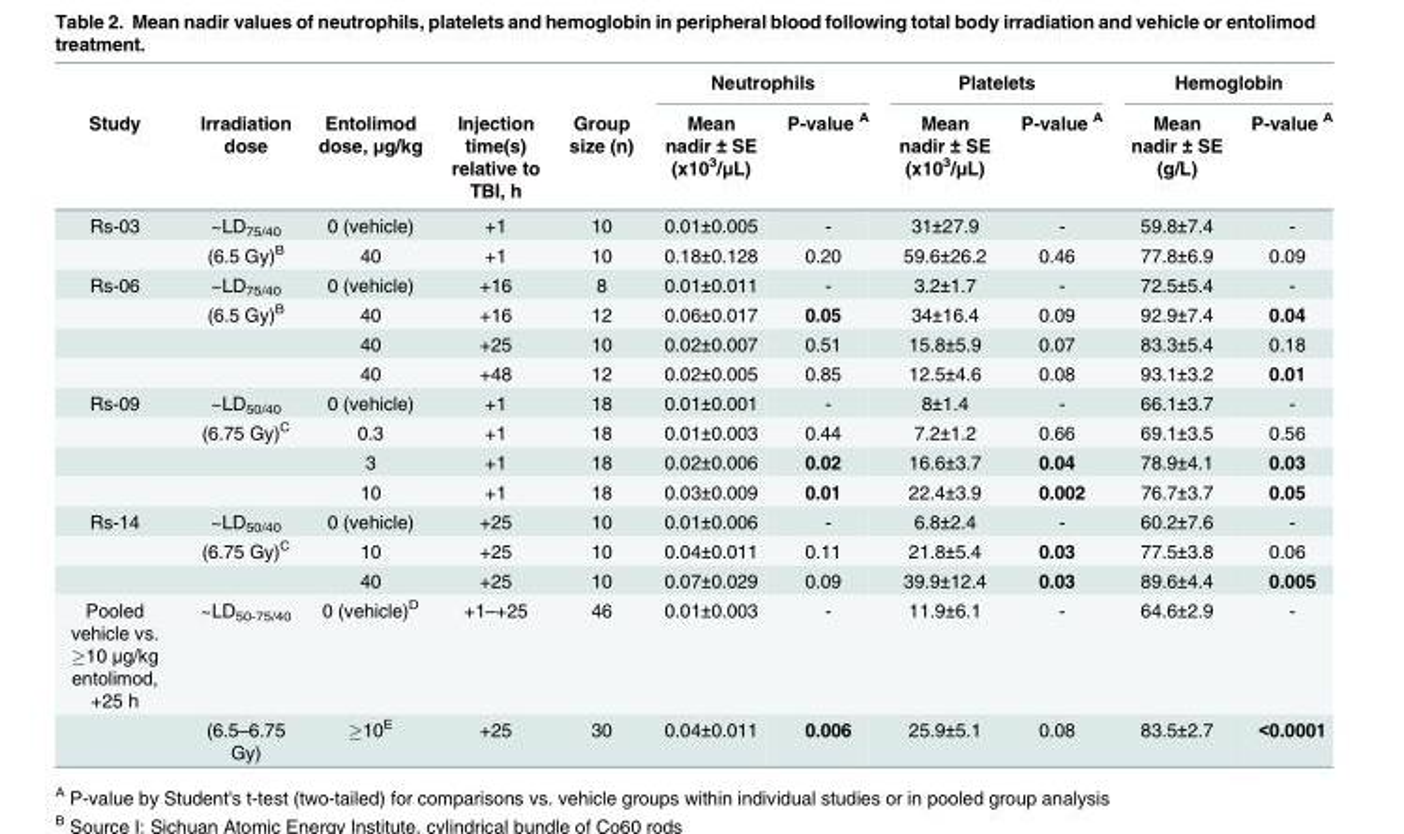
<table><thead><tr><td rowspan="2">Study</td><td rowspan="2">Irradiation dose</td><td rowspan="2">Entolimod dose, μg/kg</td><td rowspan="2">Injection time(s) relative to TBI, h</td><td rowspan="2">Group size (n)</td><td colspan="2">Neutrophils</td><td colspan="2">Platelets</td><td colspan="2">Hemoglobin</td></tr><tr><td>Mean nadir ± SE (x10<sup>3</sup>/μL)</td><td>P-value <sup>A</sup></td><td>Mean nadir ± SE (x10<sup>3</sup>/μL)</td><td>P-value <sup>A</sup></td><td>Mean nadir ± SE (g/L)</td><td>P-value <sup>A</sup></td></tr></thead><tbody><tr><td rowspan="2">Rs-03</td><td>~LD<sub>75/40</sub></td><td>0 (vehicle)</td><td>+1</td><td>10</td><td>0.01±0.005</td><td>-</td><td>31±27.9</td><td>-</td><td>59.8±7.4</td><td>-</td></tr><tr><td>(6.5 Gy)<sup>B</sup></td><td>40</td><td>+1</td><td>10</td><td>0.18±0.128</td><td>0.20</td><td>59.6±26.2</td><td>0.46</td><td>77.8±6.9</td><td>0.09</td></tr><tr><td rowspan="4">Rs-06</td><td>~LD<sub>75/40</sub></td><td>0 (vehicle)</td><td>+16</td><td>8</td><td>0.01±0.011</td><td>-</td><td>3.2±1.7</td><td>-</td><td>72.5±5.4</td><td>-</td></tr><tr><td>(6.5 Gy)<sup>B</sup></td><td>40</td><td>+16</td><td>12</td><td>0.06±0.017</td><td>0.05</td><td>34±16.4</td><td>0.09</td><td>92.9±7.4</td><td>0.04</td></tr><tr><td></td><td>40</td><td>+25</td><td>10</td><td>0.02±0.007</td><td>0.51</td><td>15.8±5.9</td><td>0.07</td><td>83.3±5.4</td><td>0.18</td></tr><tr><td></td><td>40</td><td>+48</td><td>12</td><td>0.02±0.005</td><td>0.85</td><td>12.5±4.6</td><td>0.08</td><td>93.1±3.2</td><td>0.01</td></tr><tr><td rowspan="4">Rs-09</td><td>~LD<sub>50/40</sub></td><td>0 (vehicle)</td><td>+1</td><td>18</td><td>0.01±0.001</td><td>-</td><td>8±1.4</td><td>-</td><td>66.1±3.7</td><td>-</td></tr><tr><td>(6.75 Gy)<sup>C</sup></td><td>0.3</td><td>+1</td><td>18</td><td>0.01±0.003</td><td>0.44</td><td>7.2±1.2</td><td>0.66</td><td>69.1±3.5</td><td>0.56</td></tr><tr><td></td><td>3</td><td>+1</td><td>18</td><td>0.02±0.006</td><td>0.02</td><td>16.6±3.7</td><td>0.04</td><td>78.9±4.1</td><td>0.03</td></tr><tr><td></td><td>10</td><td>+1</td><td>18</td><td>0.03±0.009</td><td>0.01</td><td>22.4±3.9</td><td>0.002</td><td>76.7±3.7</td><td>0.05</td></tr><tr><td rowspan="3">Rs-14</td><td>~LD<sub>50/40</sub></td><td>0 (vehicle)</td><td>+25</td><td>10</td><td>0.01±0.006</td><td>-</td><td>6.8±2.4</td><td>-</td><td>60.2±7.6</td><td>-</td></tr><tr><td>(6.75 Gy)<sup>C</sup></td><td>10</td><td>+25</td><td>10</td><td>0.04±0.011</td><td>0.11</td><td>21.8±5.4</td><td>0.03</td><td>77.5±3.8</td><td>0.06</td></tr><tr><td></td><td>40</td><td>+25</td><td>10</td><td>0.07±0.029</td><td>0.09</td><td>39.9±12.4</td><td>0.03</td><td>89.6±4.4</td><td>0.005</td></tr><tr><td rowspan="2">Pooled vehicle vs. ≥10 μg/kg entolimod, +25 h</td><td>~LD<sub>50-75/40</sub></td><td>0 (vehicle)<sup>D</sup></td><td>+1–+25</td><td>46</td><td>0.01±0.003</td><td>-</td><td>11.9±6.1</td><td>-</td><td>64.6±2.9</td><td>-</td></tr><tr><td>(6.5–6.75 Gy)</td><td>≥10<sup>E</sup></td><td>+25</td><td>30</td><td>0.04±0.011</td><td>0.006</td><td>25.9±5.1</td><td>0.08</td><td>83.5±2.7</td><td>&lt;0.0001</td></tr></tbody></table>